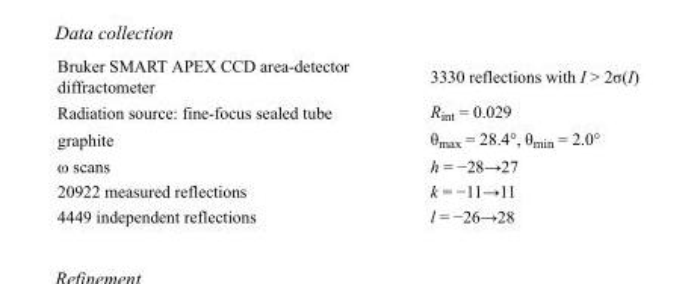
<table><tbody><tr><td>Bruker SMART APEX CCD area-detector diffractometer</td><td>3330 reflections with I &gt; 2σ(I)</td></tr><tr><td>Radiation source: fine-focus sealed tube</td><td>R<sub>int</sub> = 0.029</td></tr><tr><td>graphite</td><td>θ<sub>max</sub> = 28.4°, θ<sub>min</sub> = 2.0°</td></tr><tr><td>ω scans</td><td>h = −28→27</td></tr><tr><td>20922 measured reflections</td><td>k = −11→11</td></tr><tr><td>4449 independent reflections</td><td>l = −26→28</td></tr></tbody></table>